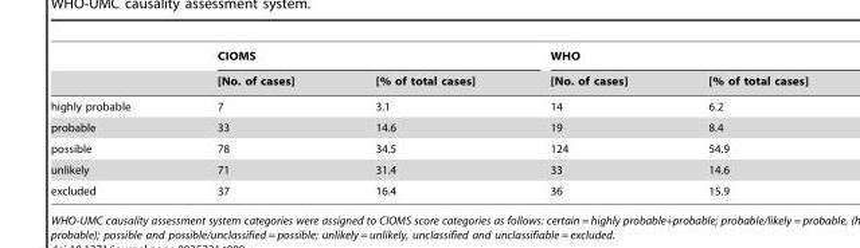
<table><thead><tr><td rowspan="2"></td><td colspan="2">CIOMS</td><td colspan="2">WHO</td></tr><tr><td>[No. of cases]</td><td>[% of total cases]</td><td>[No. of cases]</td><td>[% of total cases]</td></tr></thead><tbody><tr><td>highly probable</td><td>7</td><td>3.1</td><td>14</td><td>6.2</td></tr><tr><td>probable</td><td>33</td><td>14.6</td><td>19</td><td>8.4</td></tr><tr><td>possible</td><td>78</td><td>34.5</td><td>124</td><td>54.9</td></tr><tr><td>unlikely</td><td>71</td><td>31.4</td><td>33</td><td>14.6</td></tr><tr><td>excluded</td><td>37</td><td>16.4</td><td>36</td><td>15.9</td></tr></tbody></table>